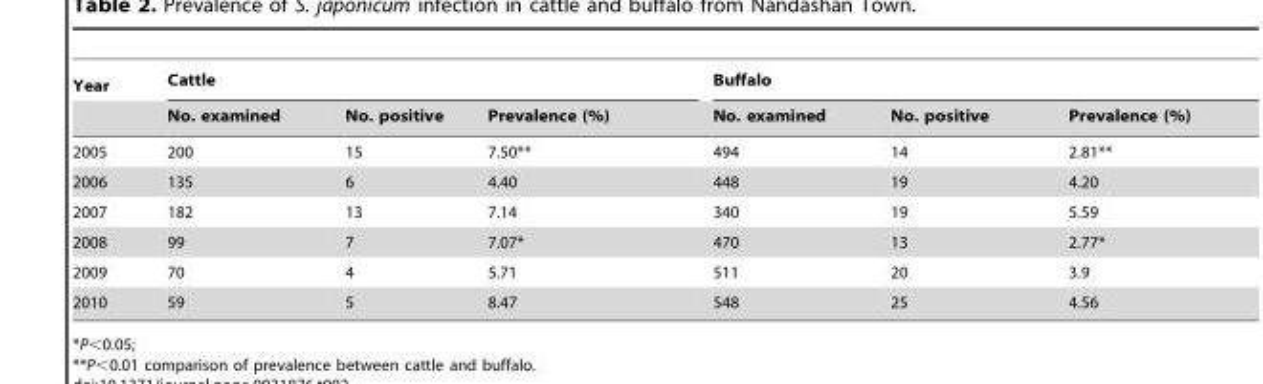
<table><thead><tr><td rowspan="2">Year</td><td colspan="3">Cattle</td><td colspan="3">Buffalo</td></tr><tr><td>No. examined</td><td>No. positive</td><td>Prevalence (%)</td><td>No. examined</td><td>No. positive</td><td>Prevalence (%)</td></tr></thead><tbody><tr><td>2005</td><td>200</td><td>15</td><td>7.50**</td><td>494</td><td>14</td><td>2.81**</td></tr><tr><td>2006</td><td>135</td><td>6</td><td>4.40</td><td>448</td><td>19</td><td>4.20</td></tr><tr><td>2007</td><td>182</td><td>13</td><td>7.14</td><td>340</td><td>19</td><td>5.59</td></tr><tr><td>2008</td><td>99</td><td>7</td><td>7.07*</td><td>470</td><td>13</td><td>2.77*</td></tr><tr><td>2009</td><td>70</td><td>4</td><td>5.71</td><td>511</td><td>20</td><td>3.9</td></tr><tr><td>2010</td><td>59</td><td>5</td><td>8.47</td><td>548</td><td>25</td><td>4.56</td></tr></tbody></table>